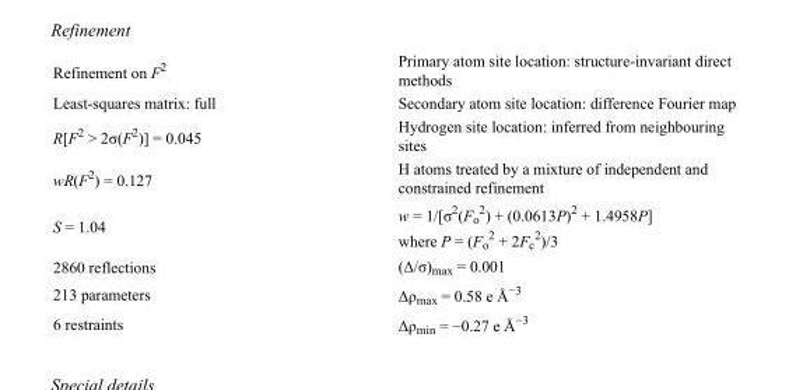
<table><tbody><tr><td>Refinement on F<sup>2</sup></td><td>Primary atom site location: structure-invariant direct methods</td></tr><tr><td>Least-squares matrix: full</td><td>Secondary atom site location: difference Fourier map</td></tr><tr><td>R[F<sup>2</sup> &gt; 2σ(F<sup>2</sup>)] = 0.045</td><td>Hydrogen site location: inferred from neighbouring sites</td></tr><tr><td>wR(F<sup>2</sup>) = 0.127</td><td>H atoms treated by a mixture of independent and constrained refinement</td></tr><tr><td>S = 1.04</td><td>w = 1/[σ<sup>2</sup>(F<sub>o</sub> <sup>2</sup>) + (0.0613P)<sup>2</sup> + 1.4958P] where P = (F<sub>o</sub> <sup>2</sup> + 2F<sub>c</sub> <sup>2</sup>)/3</td></tr><tr><td>2860 reflections</td><td>(Δ/σ)<sub>max</sub> = 0.001</td></tr><tr><td>213 parameters</td><td>Δρ<sub>max</sub> = 0.58 e Å<sup>−3</sup></td></tr><tr><td>6 restraints</td><td>Δρ<sub>min</sub> = −0.27 e Å<sup>−3</sup></td></tr></tbody></table>